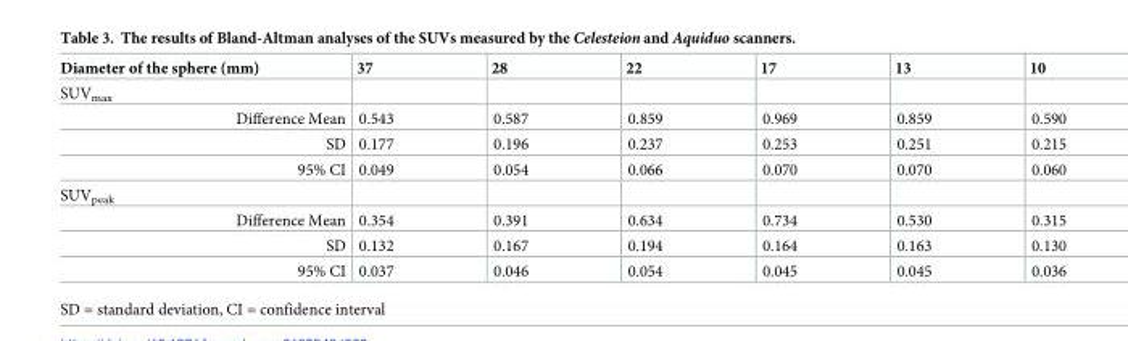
<table><thead><tr><td>Diameter of the sphere (mm)</td><td>37</td><td>28</td><td>22</td><td>17</td><td>13</td><td>10</td></tr></thead><tbody><tr><td colspan="7">SUV<sub>max</sub></td></tr><tr><td>Difference Mean</td><td>0.543</td><td>0.587</td><td>0.859</td><td>0.969</td><td>0.859</td><td>0.590</td></tr><tr><td>SD</td><td>0.177</td><td>0.196</td><td>0.237</td><td>0.253</td><td>0.251</td><td>0.215</td></tr><tr><td>95% CI</td><td>0.049</td><td>0.054</td><td>0.066</td><td>0.070</td><td>0.070</td><td>0.060</td></tr><tr><td colspan="7">SUV<sub>peak</sub></td></tr><tr><td>Difference Mean</td><td>0.354</td><td>0.391</td><td>0.634</td><td>0.734</td><td>0.530</td><td>0.315</td></tr><tr><td>SD</td><td>0.132</td><td>0.167</td><td>0.194</td><td>0.164</td><td>0.163</td><td>0.130</td></tr><tr><td>95% CI</td><td>0.037</td><td>0.046</td><td>0.054</td><td>0.045</td><td>0.045</td><td>0.036</td></tr></tbody></table>